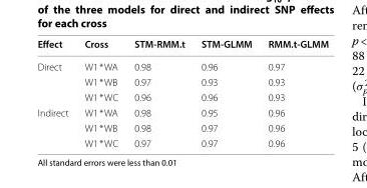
<table><thead><tr><td>Effect</td><td>Cross</td><td>STM-RMM.t</td><td>STM-GLMM</td><td>RMM.t-GLMM</td></tr></thead><tbody><tr><td rowspan="3">Direct</td><td>W1 * WA</td><td>0.98</td><td>0.96</td><td>0.97</td></tr><tr><td>W1 * WB</td><td>0.97</td><td>0.93</td><td>0.93</td></tr><tr><td>W1 * WC</td><td>0.96</td><td>0.96</td><td>0.93</td></tr><tr><td rowspan="3">Indirect</td><td>W1 * WA</td><td>0.98</td><td>0.95</td><td>0.96</td></tr><tr><td>W1 * WB</td><td>0.98</td><td>0.97</td><td>0.96</td></tr><tr><td>W1 * WC</td><td>0.97</td><td>0.97</td><td>0.96</td></tr></tbody></table>